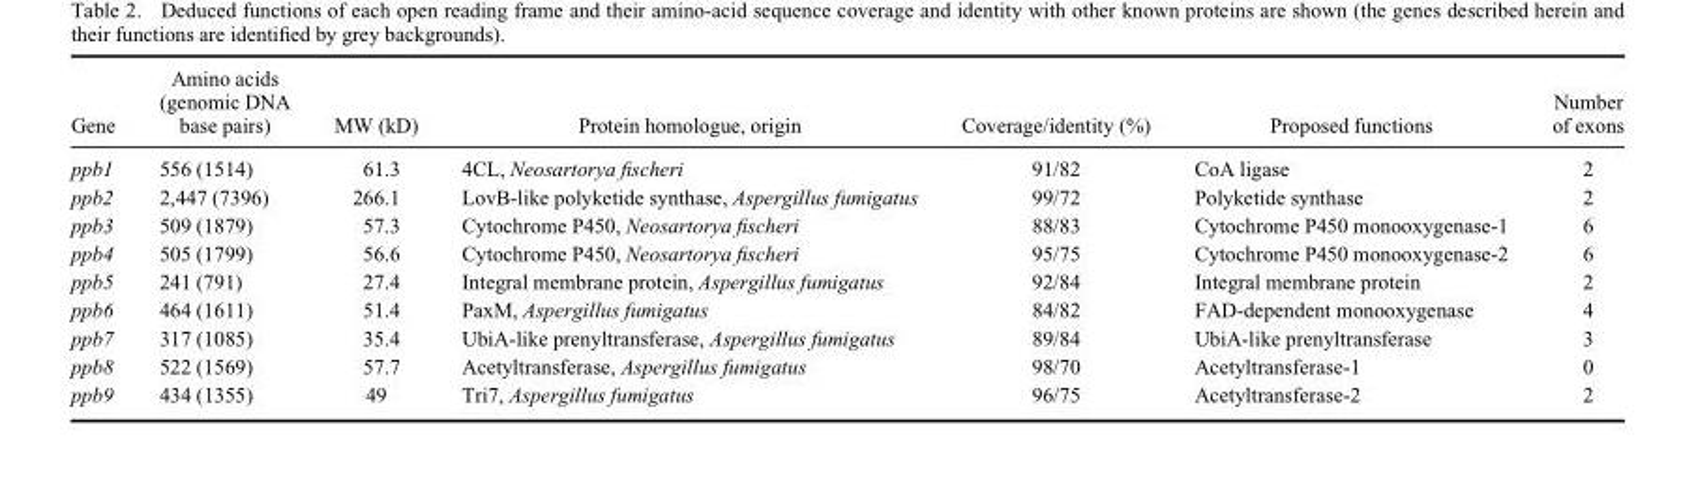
<table><thead><tr><td>Gene</td><td>Amino acids (genomic DNA base pairs)</td><td>MW (kD)</td><td>Protein homologue, origin</td><td>Coverage/identity (%)</td><td>Proposed functions</td><td>Number of exons</td></tr></thead><tbody><tr><td>ppb1</td><td>556 (1514)</td><td>61.3</td><td>4CL, Neosartorya fischeri</td><td>91/82</td><td>CoA ligase</td><td>2</td></tr><tr><td>ppb2</td><td>2,447 (7396)</td><td>266.1</td><td>LovB-like polyketide synthase, Aspergillus fumigatus</td><td>99/72</td><td>Polyketide synthase</td><td>2</td></tr><tr><td>ppb3</td><td>509 (1879)</td><td>57.3</td><td>Cytochrome P450, Neosartorya fischeri</td><td>88/83</td><td>Cytochrome P450 monooxygenase-1</td><td>6</td></tr><tr><td>ppb4</td><td>505 (1799)</td><td>56.6</td><td>Cytochrome P450, Neosartorya fischeri</td><td>95/75</td><td>Cytochrome P450 monooxygenase-2</td><td>6</td></tr><tr><td>ppb5</td><td>241 (791)</td><td>27.4</td><td>Integral membrane protein, Aspergillus fumigatus</td><td>92/84</td><td>Integral membrane protein</td><td>2</td></tr><tr><td>ppb6</td><td>464 (1611)</td><td>51.4</td><td>PaxM, Aspergillus fumigatus</td><td>84/82</td><td>FAD-dependent monooxygenase</td><td>4</td></tr><tr><td>ppb7</td><td>317 (1085)</td><td>35.4</td><td>UbiA-like prenyltransferase, Aspergillus fumigatus</td><td>89/84</td><td>UbiA-like prenyltransferase</td><td>3</td></tr><tr><td>ppb8</td><td>522 (1569)</td><td>57.7</td><td>Acetyltransferase, Aspergillus fumigatus</td><td>98/70</td><td>Acetyltransferase-1</td><td>0</td></tr><tr><td>ppb9</td><td>434 (1355)</td><td>49</td><td>Tri7, Aspergillus fumigatus</td><td>96/75</td><td>Acetyltransferase-2</td><td>2</td></tr></tbody></table>